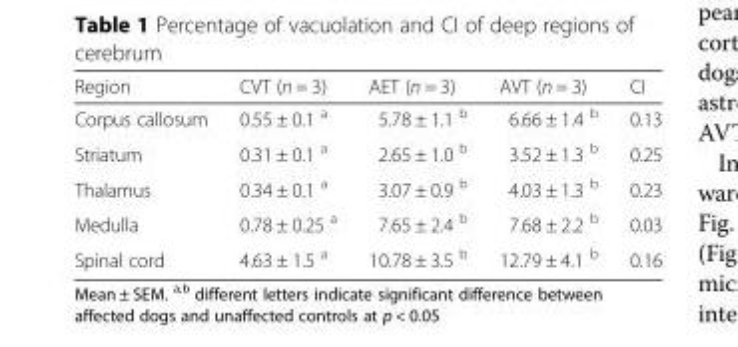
<table><thead><tr><td>Region</td><td>CVT (n = 3)</td><td>AET (n = 3)</td><td>AVT (n = 3)</td><td>CI</td></tr></thead><tbody><tr><td>Corpus callosum</td><td>0.55 ± 0.1 <sup>a</sup></td><td>5.78 ± 1.1 <sup>b</sup></td><td>6.66 ± 1.4 <sup>b</sup></td><td>0.13</td></tr><tr><td>Striatum</td><td>0.31 ± 0.1 <sup>a</sup></td><td>2.65 ± 1.0 <sup>b</sup></td><td>3.52 ± 1.3 <sup>b</sup></td><td>0.25</td></tr><tr><td>Thalamus</td><td>0.34 ± 0.1 <sup>a</sup></td><td>3.07 ± 0.9 <sup>b</sup></td><td>4.03 ± 1.3 <sup>b</sup></td><td>0.23</td></tr><tr><td>Medulla</td><td>0.78 ± 0.25 <sup>a</sup></td><td>7.65 ± 2.4 <sup>b</sup></td><td>7.68 ± 2.2 <sup>b</sup></td><td>0.03</td></tr><tr><td>Spinal cord</td><td>4.63 ± 1.5 <sup>a</sup></td><td>10.78 ± 3.5 <sup>b</sup></td><td>12.79 ± 4.1 <sup>b</sup></td><td>0.16</td></tr></tbody></table>